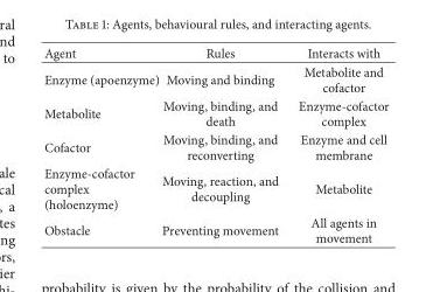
<table><thead><tr><td>Agent</td><td>Rules</td><td>Interacts with</td></tr></thead><tbody><tr><td>Enzyme (apoenzyme)</td><td>Moving and binding</td><td>Metabolite and cofactor</td></tr><tr><td>Metabolite</td><td>Moving, binding, and death</td><td>Enzyme-cofactor complex</td></tr><tr><td>Cofactor</td><td>Moving, binding, and reconverting</td><td>Enzyme and cell membrane</td></tr><tr><td>Enzyme-cofactor complex (holoenzyme)</td><td>Moving, reaction, and decoupling</td><td>Metabolite</td></tr><tr><td>Obstacle</td><td>Preventing movement</td><td>All agents in movement</td></tr></tbody></table>